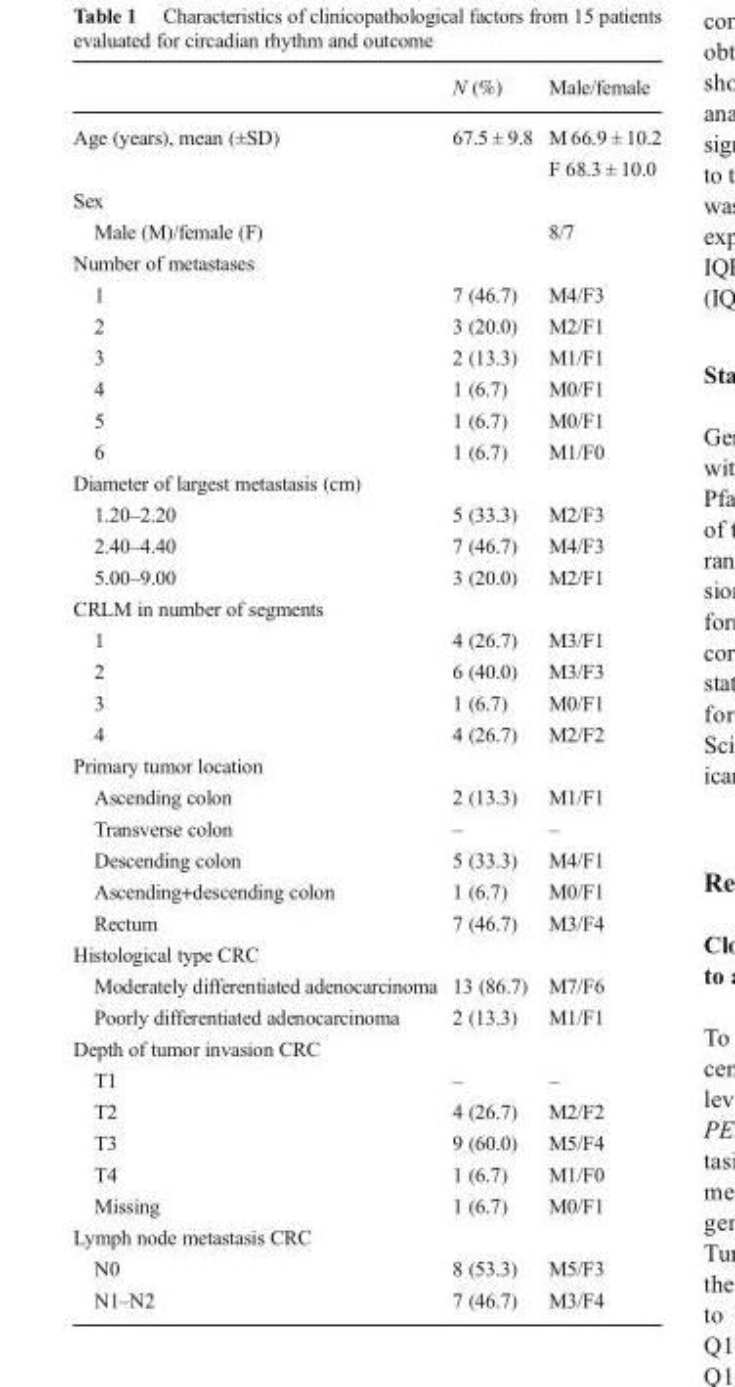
<table><thead><tr><td></td><td>N (%)</td><td>Male/female</td></tr></thead><tbody><tr><td rowspan="2">Age (years), mean (±SD)</td><td>67.5 ± 9.8</td><td>M 66.9 ± 10.2</td></tr><tr><td></td><td>F 68.3 ± 10.0</td></tr><tr><td colspan="3">Sex</td></tr><tr><td>Male (M)/female (F)</td><td></td><td>8/7</td></tr><tr><td colspan="3">Number of metastases</td></tr><tr><td>1</td><td>7 (46.7)</td><td>M4/F3</td></tr><tr><td>2</td><td>3 (20.0)</td><td>M2/F1</td></tr><tr><td>3</td><td>2 (13.3)</td><td>M1/F1</td></tr><tr><td>4</td><td>1 (6.7)</td><td>M0/F1</td></tr><tr><td>5</td><td>1 (6.7)</td><td>M0/F1</td></tr><tr><td>6</td><td>1 (6.7)</td><td>M1/F0</td></tr><tr><td colspan="3">Diameter of largest metastasis (cm)</td></tr><tr><td>1.20–2.20</td><td>5 (33.3)</td><td>M2/F3</td></tr><tr><td>2.40–4.40</td><td>7 (46.7)</td><td>M4/F3</td></tr><tr><td>5.00–9.00</td><td>3 (20.0)</td><td>M2/F1</td></tr><tr><td colspan="3">CRLM in number of segments</td></tr><tr><td>1</td><td>4 (26.7)</td><td>M3/F1</td></tr><tr><td>2</td><td>6 (40.0)</td><td>M3/F3</td></tr><tr><td>3</td><td>1 (6.7)</td><td>M0/F1</td></tr><tr><td>4</td><td>4 (26.7)</td><td>M2/F2</td></tr><tr><td colspan="3">Primary tumor location</td></tr><tr><td>Ascending colon</td><td>2 (13.3)</td><td>M1/F1</td></tr><tr><td>Transverse colon</td><td>–</td><td>–</td></tr><tr><td>Descending colon</td><td>5 (33.3)</td><td>M4/F1</td></tr><tr><td>Ascending+descending colon</td><td>1 (6.7)</td><td>M0/F1</td></tr><tr><td>Rectum</td><td>7 (46.7)</td><td>M3/F4</td></tr><tr><td colspan="3">Histological type CRC</td></tr><tr><td>Moderately differentiated adenocarcinoma</td><td>13 (86.7)</td><td>M7/F6</td></tr><tr><td>Poorly differentiated adenocarcinoma</td><td>2 (13.3)</td><td>M1/F1</td></tr><tr><td colspan="3">Depth of tumor invasion CRC</td></tr><tr><td>T1</td><td>–</td><td>–</td></tr><tr><td>T2</td><td>4 (26.7)</td><td>M2/F2</td></tr><tr><td>T3</td><td>9 (60.0)</td><td>M5/F4</td></tr><tr><td>T4</td><td>1 (6.7)</td><td>M1/F0</td></tr><tr><td>Missing</td><td>1 (6.7)</td><td>M0/F1</td></tr><tr><td colspan="3">Lymph node metastasis CRC</td></tr><tr><td>N0</td><td>8 (53.3)</td><td>M5/F3</td></tr><tr><td>N1–N2</td><td>7 (46.7)</td><td>M3/F4</td></tr></tbody></table>